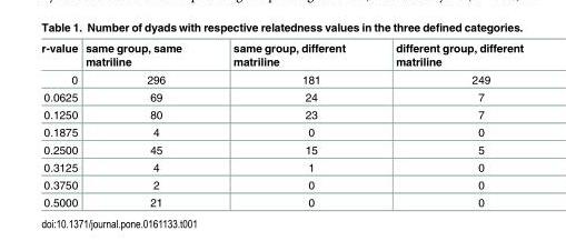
<table><thead><tr><td>r-value</td><td>same group, same matriline</td><td>same group, different matriline</td><td>different group, different matriline</td></tr></thead><tbody><tr><td>0</td><td>296</td><td>181</td><td>249</td></tr><tr><td>0.0625</td><td>69</td><td>24</td><td>7</td></tr><tr><td>0.1250</td><td>80</td><td>23</td><td>7</td></tr><tr><td>0.1875</td><td>4</td><td>0</td><td>0</td></tr><tr><td>0.2500</td><td>45</td><td>15</td><td>5</td></tr><tr><td>0.3125</td><td>4</td><td>1</td><td>0</td></tr><tr><td>0.3750</td><td>2</td><td>0</td><td>0</td></tr><tr><td>0.5000</td><td>21</td><td>0</td><td>0</td></tr></tbody></table>